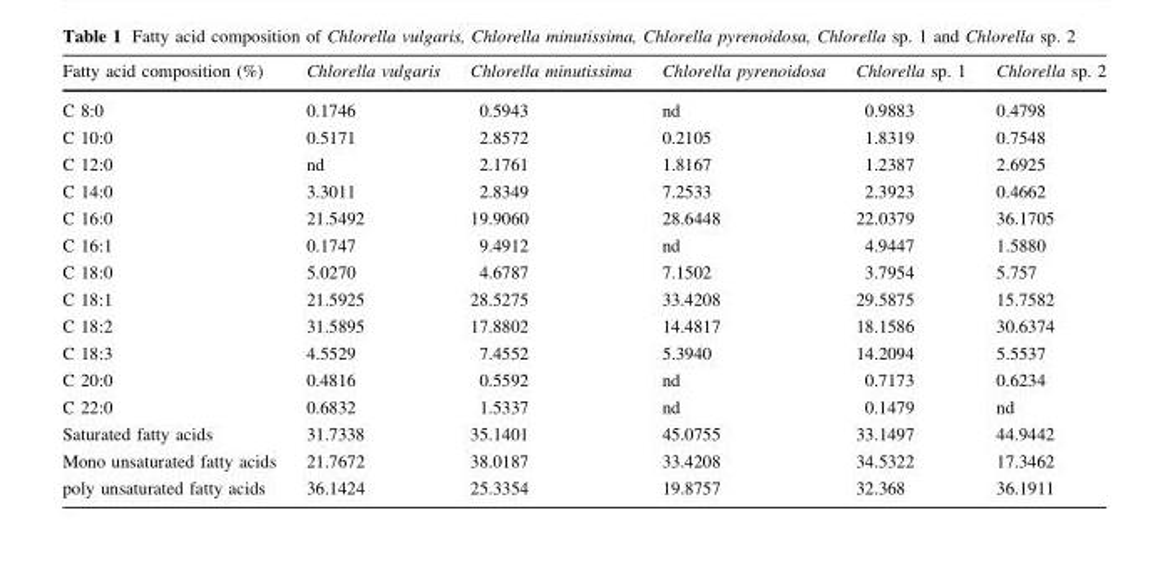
<table><thead><tr><td>Fatty acid composition (%)</td><td>Chlorella vulgaris</td><td>Chlorella minutissima</td><td>Chlorella pyrenoidosa</td><td>Chlorella sp. 1</td><td>Chlorella sp. 2</td></tr></thead><tbody><tr><td>C 8:0</td><td>0.1746</td><td>0.5943</td><td>nd</td><td>0.9883</td><td>0.4798</td></tr><tr><td>C 10:0</td><td>0.5171</td><td>2.8572</td><td>0.2105</td><td>1.8319</td><td>0.7548</td></tr><tr><td>C 12:0</td><td>nd</td><td>2.1761</td><td>1.8167</td><td>1.2387</td><td>2.6925</td></tr><tr><td>C 14:0</td><td>3.3011</td><td>2.8349</td><td>7.2533</td><td>2.3923</td><td>0.4662</td></tr><tr><td>C 16:0</td><td>21.5492</td><td>19.9060</td><td>28.6448</td><td>22.0379</td><td>36.1705</td></tr><tr><td>C 16:1</td><td>0.1747</td><td>9.4912</td><td>nd</td><td>4.9447</td><td>1.5880</td></tr><tr><td>C 18:0</td><td>5.0270</td><td>4.6787</td><td>7.1502</td><td>3.7954</td><td>5.757</td></tr><tr><td>C 18:1</td><td>21.5925</td><td>28.5275</td><td>33.4208</td><td>29.5875</td><td>15.7582</td></tr><tr><td>C 18:2</td><td>31.5895</td><td>17.8802</td><td>14.4817</td><td>18.1586</td><td>30.6374</td></tr><tr><td>C 18:3</td><td>4.5529</td><td>7.4552</td><td>5.3940</td><td>14.2094</td><td>5.5537</td></tr><tr><td>C 20:0</td><td>0.4816</td><td>0.5592</td><td>nd</td><td>0.7173</td><td>0.6234</td></tr><tr><td>C 22:0</td><td>0.6832</td><td>1.5337</td><td>nd</td><td>0.1479</td><td>nd</td></tr><tr><td>Saturated fatty acids</td><td>31.7338</td><td>35.1401</td><td>45.0755</td><td>33.1497</td><td>44.9442</td></tr><tr><td>Mono unsaturated fatty acids</td><td>21.7672</td><td>38.0187</td><td>33.4208</td><td>34.5322</td><td>17.3462</td></tr><tr><td>poly unsaturated fatty acids</td><td>36.1424</td><td>25.3354</td><td>19.8757</td><td>32.368</td><td>36.1911</td></tr></tbody></table>